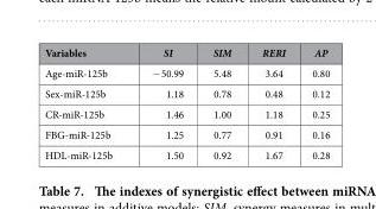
<table><thead><tr><td>Variables</td><td>SI</td><td>SIM</td><td>RERI</td><td>AP</td></tr></thead><tbody><tr><td>Age-miR-125b</td><td>− 50.99</td><td>5.48</td><td>3.64</td><td>0.80</td></tr><tr><td>Sex-miR-125b</td><td>1.18</td><td>0.78</td><td>0.48</td><td>0.12</td></tr><tr><td>CR-miR-125b</td><td>1.46</td><td>1.00</td><td>1.18</td><td>0.25</td></tr><tr><td>FBG-miR-125b</td><td>1.25</td><td>0.77</td><td>0.91</td><td>0.16</td></tr><tr><td>HDL-miR-125b</td><td>1.50</td><td>0.92</td><td>1.67</td><td>0.28</td></tr></tbody></table>